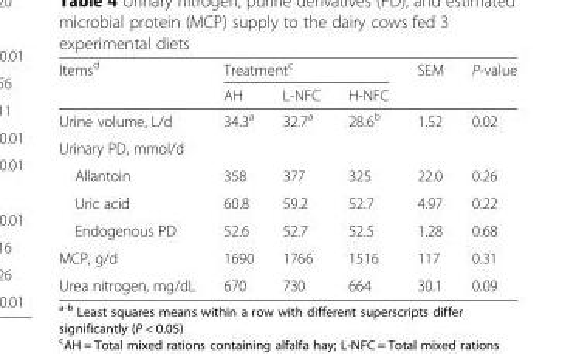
<table><thead><tr><td rowspan="2">Items<sup>d</sup></td><td colspan="3">Treatment<sup>c</sup></td><td rowspan="2">SEM</td><td rowspan="2">P-value</td></tr><tr><td>AH</td><td>L-NFC</td><td>H-NFC</td></tr></thead><tbody><tr><td>Urine volume, L/d</td><td>34.3<sup>a</sup></td><td>32.7<sup>a</sup></td><td>28.6<sup>b</sup></td><td>1.52</td><td>0.02</td></tr><tr><td colspan="6">Urinary PD, mmol/d</td></tr><tr><td>Allantoin</td><td>358</td><td>377</td><td>325</td><td>22.0</td><td>0.26</td></tr><tr><td>Uric acid</td><td>60.8</td><td>59.2</td><td>52.7</td><td>4.97</td><td>0.22</td></tr><tr><td>Endogenous PD</td><td>52.6</td><td>52.7</td><td>52.5</td><td>1.28</td><td>0.68</td></tr><tr><td>MCP, g/d</td><td>1690</td><td>1766</td><td>1516</td><td>117</td><td>0.31</td></tr><tr><td>Urea nitrogen, mg/dL</td><td>670</td><td>730</td><td>664</td><td>30.1</td><td>0.09</td></tr></tbody></table>